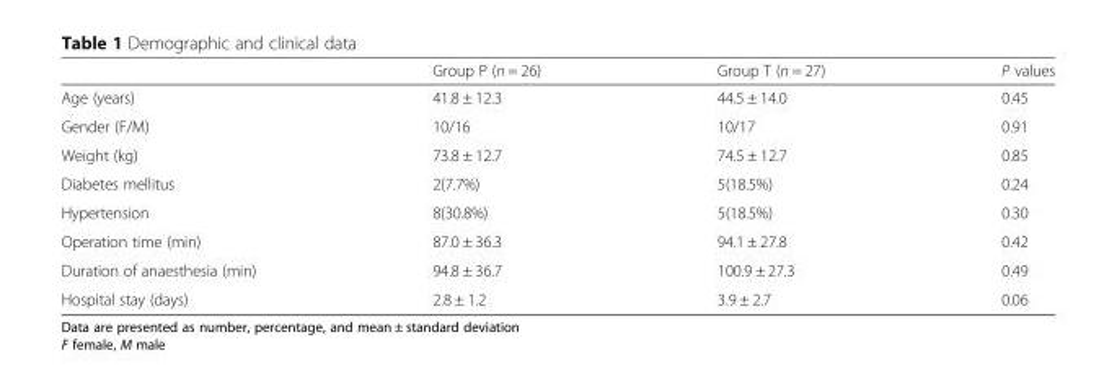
<table><thead><tr><td></td><td>Group P (n = 26)</td><td>Group T (n = 27)</td><td>P values</td></tr></thead><tbody><tr><td>Age (years)</td><td>41.8 ± 12.3</td><td>44.5 ± 14.0</td><td>0.45</td></tr><tr><td>Gender (F/M)</td><td>10/16</td><td>10/17</td><td>0.91</td></tr><tr><td>Weight (kg)</td><td>73.8 ± 12.7</td><td>74.5 ± 12.7</td><td>0.85</td></tr><tr><td>Diabetes mellitus</td><td>2(7.7%)</td><td>5(18.5%)</td><td>0.24</td></tr><tr><td>Hypertension</td><td>8(30.8%)</td><td>5(18.5%)</td><td>0.30</td></tr><tr><td>Operation time (min)</td><td>87.0 ± 36.3</td><td>94.1 ± 27.8</td><td>0.42</td></tr><tr><td>Duration of anaesthesia (min)</td><td>94.8 ± 36.7</td><td>100.9 ± 27.3</td><td>0.49</td></tr><tr><td>Hospital stay (days)</td><td>2.8 ± 1.2</td><td>3.9 ± 2.7</td><td>0.06</td></tr></tbody></table>